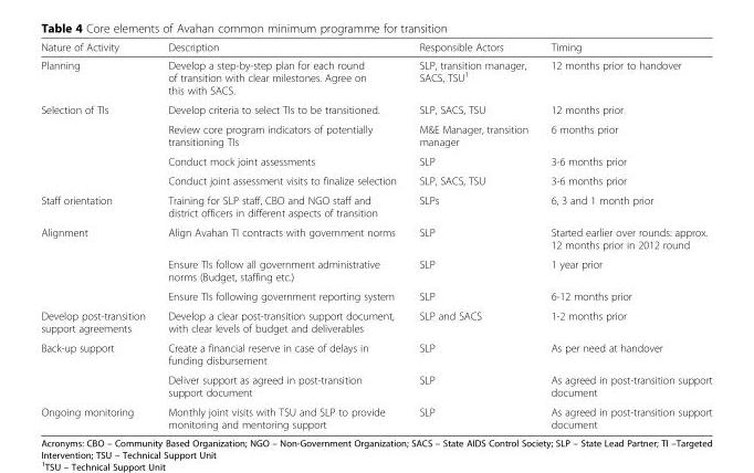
<table><thead><tr><td>Nature of Activity</td><td>Description</td><td>Responsible Actors</td><td>Timing</td></tr></thead><tbody><tr><td>Planning</td><td>Develop a step-by-step plan for each round of transition with clear milestones. Agree on this with SACS.</td><td>SLP, transition manager, SACS, TSU<sup>1</sup></td><td>12 months prior to handover</td></tr><tr><td rowspan="4">Selection of TIs</td><td>Develop criteria to select TIs to be transitioned.</td><td>SLP, SACS, TSU</td><td>12 months prior</td></tr><tr><td>Review core program indicators of potentially transitioning TIs</td><td>M&amp;E Manager, transition manager</td><td>6 months prior</td></tr><tr><td>Conduct mock joint assessments</td><td>SLP</td><td>3-6 months prior</td></tr><tr><td>Conduct joint assessment visits to finalize selection</td><td>SLP, SACS, TSU</td><td>3-6 months prior</td></tr><tr><td>Staff orientation</td><td>Training for SLP staff, CBO and NGO staff and district officers in different aspects of transition</td><td>SLPs</td><td>6, 3 and 1 month prior</td></tr><tr><td rowspan="3">Alignment</td><td>Align Avahan TI contracts with government norms</td><td>SLP</td><td>Started earlier over rounds: approx. 12 months prior in 2012 round</td></tr><tr><td>Ensure TIs follow all government administrative norms (Budget, staffing etc.)</td><td>SLP</td><td>1 year prior</td></tr><tr><td>Ensure TIs following government reporting system</td><td>SLP</td><td>6-12 months prior</td></tr><tr><td>Develop post-transition support agreements</td><td>Develop a clear post-transition support document, with clear levels of budget and deliverables</td><td>SLP and SACS</td><td>1-2 months prior</td></tr><tr><td rowspan="2">Back-up support</td><td>Create a financial reserve in case of delays in funding disbursement</td><td>SLP</td><td>As per need at handover</td></tr><tr><td>Deliver support as agreed in post-transition support document</td><td>SLP</td><td>As agreed in post-transition support document</td></tr><tr><td>Ongoing monitoring</td><td>Monthly joint visits with TSU and SLP to provide monitoring and mentoring support</td><td>SLP</td><td>As agreed in post-transition support document</td></tr></tbody></table>